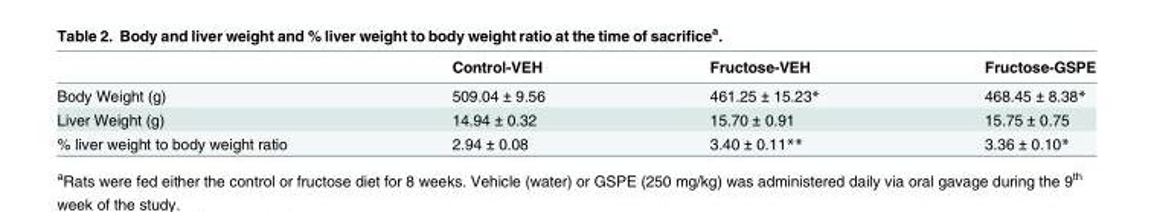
<table><thead><tr><td></td><td>Control-VEH</td><td>Fructose-VEH</td><td>Fructose-GSPE</td></tr></thead><tbody><tr><td>Body Weight (g)</td><td>509.04 ± 9.56</td><td>461.25 ± 15.23*</td><td>468.45 ± 8.38*</td></tr><tr><td>Liver Weight (g)</td><td>14.94 ± 0.32</td><td>15.70 ± 0.91</td><td>15.75 ± 0.75</td></tr><tr><td>% liver weight to body weight ratio</td><td>2.94 ± 0.08</td><td>3.40 ± 0.11**</td><td>3.36 ± 0.10*</td></tr></tbody></table>